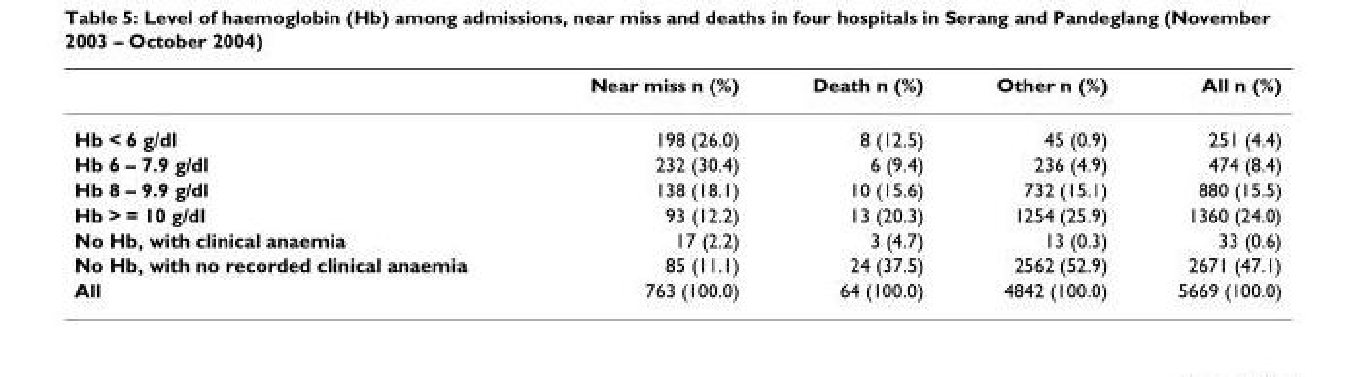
<table><thead><tr><td></td><td>Near miss n (%)</td><td>Death n (%)</td><td>Other n (%)</td><td>All n (%)</td></tr></thead><tbody><tr><td>Hb &lt; 6 g/dl</td><td>198 (26.0)</td><td>8 (12.5)</td><td>45 (0.9)</td><td>251 (4.4)</td></tr><tr><td>Hb 6 – 7.9 g/dl</td><td>232 (30.4)</td><td>6 (9.4)</td><td>236 (4.9)</td><td>474 (8.4)</td></tr><tr><td>Hb 8 – 9.9 g/dl</td><td>138 (18.1)</td><td>10 (15.6)</td><td>732 (15.1)</td><td>880 (15.5)</td></tr><tr><td>Hb &gt; = 10 g/dl</td><td>93 (12.2)</td><td>13 (20.3)</td><td>1254 (25.9)</td><td>1360 (24.0)</td></tr><tr><td>No Hb, with clinical anaemia</td><td>17 (2.2)</td><td>3 (4.7)</td><td>13 (0.3)</td><td>33 (0.6)</td></tr><tr><td>No Hb, with no recorded clinical anaemia</td><td>85 (11.1)</td><td>24 (37.5)</td><td>2562 (52.9)</td><td>2671 (47.1)</td></tr><tr><td>All</td><td>763 (100.0)</td><td>64 (100.0)</td><td>4842 (100.0)</td><td>5669 (100.0)</td></tr></tbody></table>